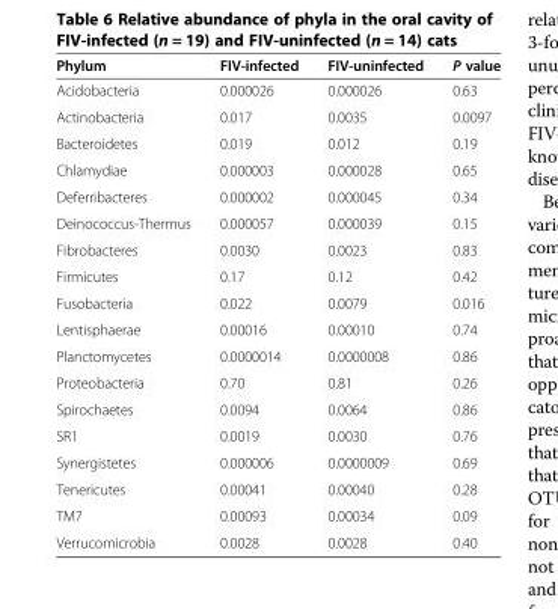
<table><thead><tr><td>Phylum</td><td>FIV-infected</td><td>FIV-uninfected</td><td>P value</td></tr></thead><tbody><tr><td>Acidobacteria</td><td>0.000026</td><td>0.000026</td><td>0.63</td></tr><tr><td>Actinobacteria</td><td>0.017</td><td>0.0035</td><td>0.0097</td></tr><tr><td>Bacteroidetes</td><td>0.019</td><td>0.012</td><td>0.19</td></tr><tr><td>Chlamydiae</td><td>0.000003</td><td>0.000028</td><td>0.65</td></tr><tr><td>Deferribacteres</td><td>0.000002</td><td>0.000045</td><td>0.34</td></tr><tr><td>Deinococcus-Thermus</td><td>0.000057</td><td>0.000039</td><td>0.15</td></tr><tr><td>Fibrobacteres</td><td>0.0030</td><td>0.0023</td><td>0.83</td></tr><tr><td>Firmicutes</td><td>0.17</td><td>0.12</td><td>0.42</td></tr><tr><td>Fusobacteria</td><td>0.022</td><td>0.0079</td><td>0.016</td></tr><tr><td>Lentisphaerae</td><td>0.00016</td><td>0.00010</td><td>0.74</td></tr><tr><td>Planctomycetes</td><td>0.0000014</td><td>0.0000008</td><td>0.86</td></tr><tr><td>Proteobacteria</td><td>0.70</td><td>0.81</td><td>0.26</td></tr><tr><td>Spirochaetes</td><td>0.0094</td><td>0.0064</td><td>0.86</td></tr><tr><td>SR1</td><td>0.0019</td><td>0.0030</td><td>0.76</td></tr><tr><td>Synergistetes</td><td>0.000006</td><td>0.0000009</td><td>0.69</td></tr><tr><td>Tenericutes</td><td>0.00041</td><td>0.00040</td><td>0.28</td></tr><tr><td>TM7</td><td>0.00093</td><td>0.00034</td><td>0.09</td></tr><tr><td>Verrucomicrobia</td><td>0.0028</td><td>0.0028</td><td>0.40</td></tr></tbody></table>